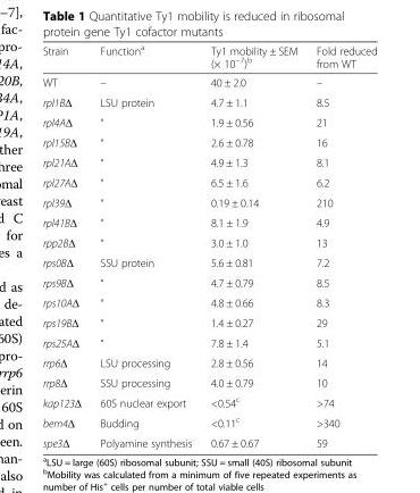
<table><thead><tr><td>Strain</td><td>Function<sup>a</sup></td><td>Ty1 mobility ± SEM (× 10<sup>−7</sup>)<sup>b</sup></td><td>Fold reduced from WT</td></tr></thead><tbody><tr><td>WT</td><td>–</td><td>40 ± 2.0</td><td>–</td></tr><tr><td>rpl1BΔ</td><td>LSU protein</td><td>4.7 ± 1.1</td><td>8.5</td></tr><tr><td>rpl4AΔ</td><td>“</td><td>1.9 ± 0.56</td><td>21</td></tr><tr><td>rpl15BΔ</td><td>“</td><td>2.6 ± 0.78</td><td>16</td></tr><tr><td>rpl21AΔ</td><td>“</td><td>4.9 ± 1.3</td><td>8.1</td></tr><tr><td>rpl27AΔ</td><td>“</td><td>6.5 ± 1.6</td><td>6.2</td></tr><tr><td>rpl39Δ</td><td>“</td><td>0.19 ± 0.14</td><td>210</td></tr><tr><td>rpl41BΔ</td><td>“</td><td>8.1 ± 1.9</td><td>4.9</td></tr><tr><td>rpp2BΔ</td><td>“</td><td>3.0 ± 1.0</td><td>13</td></tr><tr><td>rps0BΔ</td><td>SSU protein</td><td>5.6 ± 0.81</td><td>7.2</td></tr><tr><td>rps9BΔ</td><td>“</td><td>4.7 ± 0.79</td><td>8.5</td></tr><tr><td>rps10AΔ</td><td>“</td><td>4.8 ± 0.66</td><td>8.3</td></tr><tr><td>rps19BΔ</td><td>“</td><td>1.4 ± 0.27</td><td>29</td></tr><tr><td>rps25AΔ</td><td>“</td><td>7.8 ± 1.4</td><td>5.1</td></tr><tr><td>rrp6Δ</td><td>LSU processing</td><td>2.8 ± 0.56</td><td>14</td></tr><tr><td>rrp8Δ</td><td>SSU processing</td><td>4.0 ± 0.79</td><td>10</td></tr><tr><td>kap123Δ</td><td>60S nuclear export</td><td>&lt;0.54<sup>c</sup></td><td>&gt;74</td></tr><tr><td>bem4Δ</td><td>Budding</td><td>&lt;0.11<sup>c</sup></td><td>&gt;340</td></tr><tr><td>spe3Δ</td><td>Polyamine synthesis</td><td>0.67 ± 0.67</td><td>59</td></tr></tbody></table>